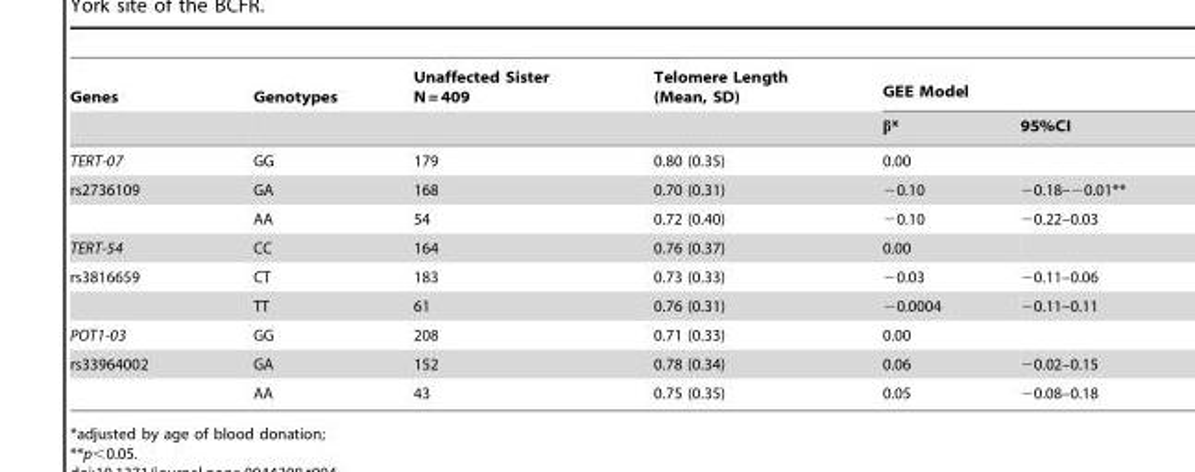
<table><thead><tr><td rowspan="2">Genes</td><td rowspan="2">Genotypes</td><td rowspan="2">Unaffected Sister N = 409</td><td rowspan="2">Telomere Length (Mean, SD)</td><td colspan="2">GEE Model</td></tr><tr><td>β*</td><td>95%CI</td></tr></thead><tbody><tr><td>TERT-07</td><td>GG</td><td>179</td><td>0.80 (0.35)</td><td>0.00</td><td></td></tr><tr><td rowspan="2">rs2736109</td><td>GA</td><td>168</td><td>0.70 (0.31)</td><td>−0.10</td><td>−0.18–−0.01**</td></tr><tr><td>AA</td><td>54</td><td>0.72 (0.40)</td><td>−0.10</td><td>−0.22–0.03</td></tr><tr><td>TERT-54</td><td>CC</td><td>164</td><td>0.76 (0.37)</td><td>0.00</td><td></td></tr><tr><td rowspan="2">rs3816659</td><td>CT</td><td>183</td><td>0.73 (0.33)</td><td>−0.03</td><td>−0.11–0.06</td></tr><tr><td>TT</td><td>61</td><td>0.76 (0.31)</td><td>−0.0004</td><td>−0.11–0.11</td></tr><tr><td>POT1-03</td><td>GG</td><td>208</td><td>0.71 (0.33)</td><td>0.00</td><td></td></tr><tr><td rowspan="2">rs33964002</td><td>GA</td><td>152</td><td>0.78 (0.34)</td><td>0.06</td><td>−0.02–0.15</td></tr><tr><td>AA</td><td>43</td><td>0.75 (0.35)</td><td>0.05</td><td>−0.08–0.18</td></tr></tbody></table>